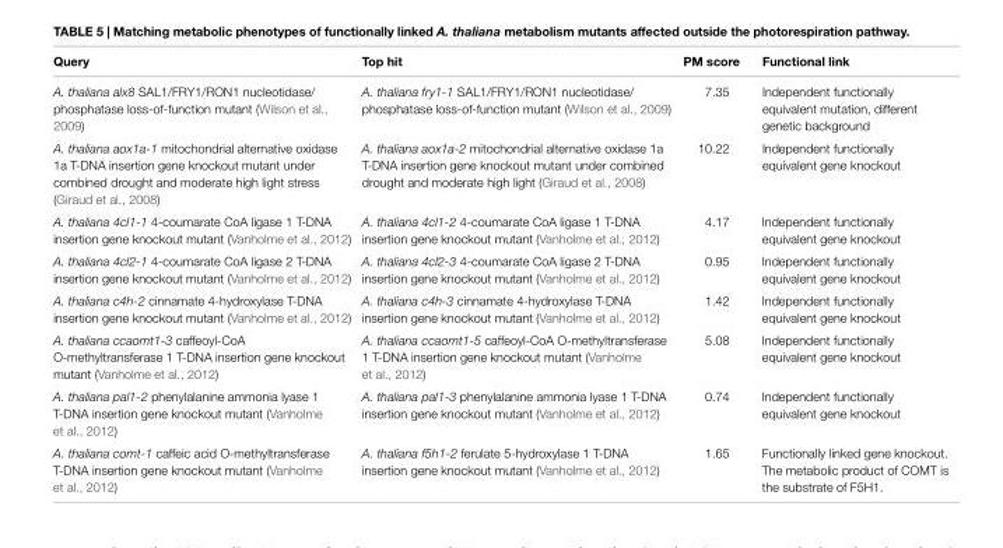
<table><thead><tr><td>Query</td><td>Top hit</td><td>pM score</td><td>Functional link</td></tr></thead><tbody><tr><td>A. thaliana alx8 SAL1/FRY1/RON1 nucleotidase/ phosphatase loss-of-function mutant (Wilson et al., 2009)</td><td>A. thaliana fry1-1 SAL1/FRY1/RON1 nucleotidase/ phosphatase loss-of-function mutant (Wilson et al., 2009)</td><td>7.35</td><td>Independent functionally equivalent mutation, different genetic background</td></tr><tr><td>A. thaliana aox1a-1 mitochondrial alternative oxidase 1a T-DNA insertion gene knockout mutant under combined drought and moderate high light stress (Giraud et al., 2008)</td><td>A. thaliana aox1a-2 mitochondrial alternative oxidase 1a T-DNA insertion gene knockout mutant under combined drought and moderate high light (Giraud et al., 2008)</td><td>10.22</td><td>Independent functionally equivalent gene knockout</td></tr><tr><td>A. thaliana 4cl1-1 4-coumarate CoA ligase 1 T-DNA insertion gene knockout mutant (Vanholme et al., 2012)</td><td>A. thaliana 4cl1-2 4-coumarate CoA ligase 1 T-DNA insertion gene knockout mutant (Vanholme et al., 2012)</td><td>4.17</td><td>Independent functionally equivalent gene knockout</td></tr><tr><td>A. thaliana 4cl2-1 4-coumarate CoA ligase 2 T-DNA insertion gene knockout mutant (Vanholme et al., 2012)</td><td>A. thaliana 4cl2-3 4-coumarate CoA ligase 2 T-DNA insertion gene knockout mutant (Vanholme et al., 2012)</td><td>0.95</td><td>Independent functionally equivalent gene knockout</td></tr><tr><td>A. thaliana c4h-2 cinnamate 4-hydroxylase T-DNA insertion gene knockout mutant (Vanholme et al., 2012)</td><td>A. thaliana c4h-3 cinnamate 4-hydroxylase T-DNA insertion gene knockout mutant (Vanholme et al., 2012)</td><td>1.42</td><td>Independent functionally equivalent gene knockout</td></tr><tr><td>A. thaliana ccaomt1-3 caffeoyl-CoA O-methyltransferase 1 T-DNA insertion gene knockout mutant (Vanholme et al., 2012)</td><td>A. thaliana ccaomt1-5 caffeoyl-CoA O-methyltransferase 1 T-DNA insertion gene knockout mutant (Vanholme et al., 2012)</td><td>5.08</td><td>Independent functionally equivalent gene knockout</td></tr><tr><td>A. thaliana pal1-2 phenylalanine ammonia lyase 1 T-DNA insertion gene knockout mutant (Vanholme et al., 2012)</td><td>A. thaliana pal1-3 phenylalanine ammonia lyase 1 T-DNA insertion gene knockout mutant (Vanholme et al., 2012)</td><td>0.74</td><td>Independent functionally equivalent gene knockout</td></tr><tr><td>A. thaliana comt-1 caffeic acid O-methyltransferase T-DNA insertion gene knockout mutant (Vanholme et al., 2012)</td><td>A. thaliana f5h1-2 ferulate 5-hydroxylase 1 T-DNA insertion gene knockout mutant (Vanholme et al., 2012)</td><td>1.65</td><td>Functionally linked gene knockout. The metabolic product of COMT is the substrate of F5H1.</td></tr></tbody></table>